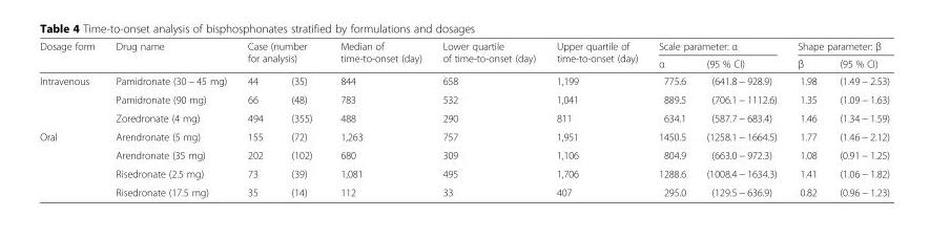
<table><thead><tr><td rowspan="3">Dosage form Intravenous</td><td rowspan="3">Drug name Pamidronate (30 − 45 mg)</td><td rowspan="2" colspan="2">Case (number for analysis)</td><td rowspan="3">Median of time-to-onset (day) 844</td><td rowspan="3">Lower quartile of time-to-onset (day) 658</td><td rowspan="3">Upper quartile of time-to-onset (day) 1,199</td><td colspan="2">Scale parameter: α</td><td colspan="2">Shape parameter: β</td></tr><tr><td rowspan="2">α 775.6</td><td rowspan="2">(95 % CI) (641.8 − 928.9)</td><td rowspan="2">β 1.98</td><td rowspan="2">(95 % CI) (1.49 − 2.53)</td></tr><tr><td>44</td><td>(35)</td></tr></thead><tbody><tr><td></td><td>Pamidronate (90 mg)</td><td>66</td><td>(48)</td><td>783</td><td>532</td><td>1,041</td><td>889.5</td><td>(706.1 − 1112.6)</td><td>1.35</td><td>(1.09 − 1.63)</td></tr><tr><td></td><td>Zoredronate (4 mg)</td><td>494</td><td>(355)</td><td>488</td><td>290</td><td>811</td><td>634.1</td><td>(587.7 − 683.4)</td><td>1.46</td><td>(1.34 − 1.59)</td></tr><tr><td rowspan="4">Oral</td><td>Arendronate (5 mg)</td><td>155</td><td>(72)</td><td>1,263</td><td>757</td><td>1,951</td><td>1450.5</td><td>(1258.1 − 1664.5)</td><td>1.77</td><td>(1.46 − 2.12)</td></tr><tr><td>Arendronate (35 mg)</td><td>202</td><td>(102)</td><td>680</td><td>309</td><td>1,106</td><td>804.9</td><td>(663.0 − 972.3)</td><td>1.08</td><td>(0.91 − 1.25)</td></tr><tr><td>Risedronate (2.5 mg)</td><td>73</td><td>(39)</td><td>1,081</td><td>495</td><td>1,706</td><td>1288.6</td><td>(1008.4 − 1634.3)</td><td>1.41</td><td>(1.06 − 1.82)</td></tr><tr><td>Risedronate (17.5 mg)</td><td>35</td><td>(14)</td><td>112</td><td>33</td><td>407</td><td>295.0</td><td>(129.5 − 636.9)</td><td>0.82</td><td>(0.96 − 1.23)</td></tr></tbody></table>